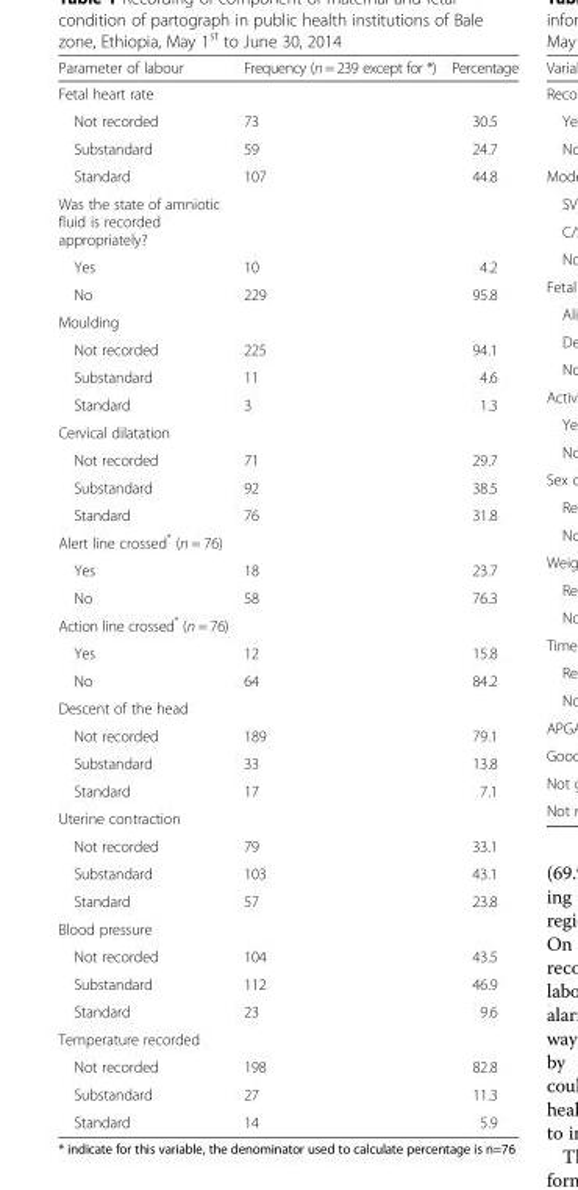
<table><thead><tr><td>Parameter of labour</td><td>Frequency (n = 239 except for *)</td><td>Percentage</td></tr></thead><tbody><tr><td colspan="3">Fetal heart rate</td></tr><tr><td>Not recorded</td><td>73</td><td>30.5</td></tr><tr><td>Substandard</td><td>59</td><td>24.7</td></tr><tr><td>Standard</td><td>107</td><td>44.8</td></tr><tr><td colspan="3">Was the state of amniotic fluid is recorded appropriately?</td></tr><tr><td>Yes</td><td>10</td><td>4.2</td></tr><tr><td>No</td><td>229</td><td>95.8</td></tr><tr><td colspan="3">Moulding</td></tr><tr><td>Not recorded</td><td>225</td><td>94.1</td></tr><tr><td>Substandard</td><td>11</td><td>4.6</td></tr><tr><td>Standard</td><td>3</td><td>1.3</td></tr><tr><td colspan="3">Cervical dilatation</td></tr><tr><td>Not recorded</td><td>71</td><td>29.7</td></tr><tr><td>Substandard</td><td>92</td><td>38.5</td></tr><tr><td>Standard</td><td>76</td><td>31.8</td></tr><tr><td colspan="3">Alert line crossed* (n = 76)</td></tr><tr><td>Yes</td><td>18</td><td>23.7</td></tr><tr><td>No</td><td>58</td><td>76.3</td></tr><tr><td colspan="3">Action line crossed* (n = 76)</td></tr><tr><td>Yes</td><td>12</td><td>15.8</td></tr><tr><td>No</td><td>64</td><td>84.2</td></tr><tr><td colspan="3">Descent of the head</td></tr><tr><td>Not recorded</td><td>189</td><td>79.1</td></tr><tr><td>Substandard</td><td>33</td><td>13.8</td></tr><tr><td>Standard</td><td>17</td><td>7.1</td></tr><tr><td colspan="3">Uterine contraction</td></tr><tr><td>Not recorded</td><td>79</td><td>33.1</td></tr><tr><td>Substandard</td><td>103</td><td>43.1</td></tr><tr><td>Standard</td><td>57</td><td>23.8</td></tr><tr><td colspan="3">Blood pressure</td></tr><tr><td>Not recorded</td><td>104</td><td>43.5</td></tr><tr><td>Substandard</td><td>112</td><td>46.9</td></tr><tr><td>Standard</td><td>23</td><td>9.6</td></tr><tr><td colspan="3">Temperature recorded</td></tr><tr><td>Not recorded</td><td>198</td><td>82.8</td></tr><tr><td>Substandard</td><td>27</td><td>11.3</td></tr><tr><td>Standard</td><td>14</td><td>5.9</td></tr></tbody></table>